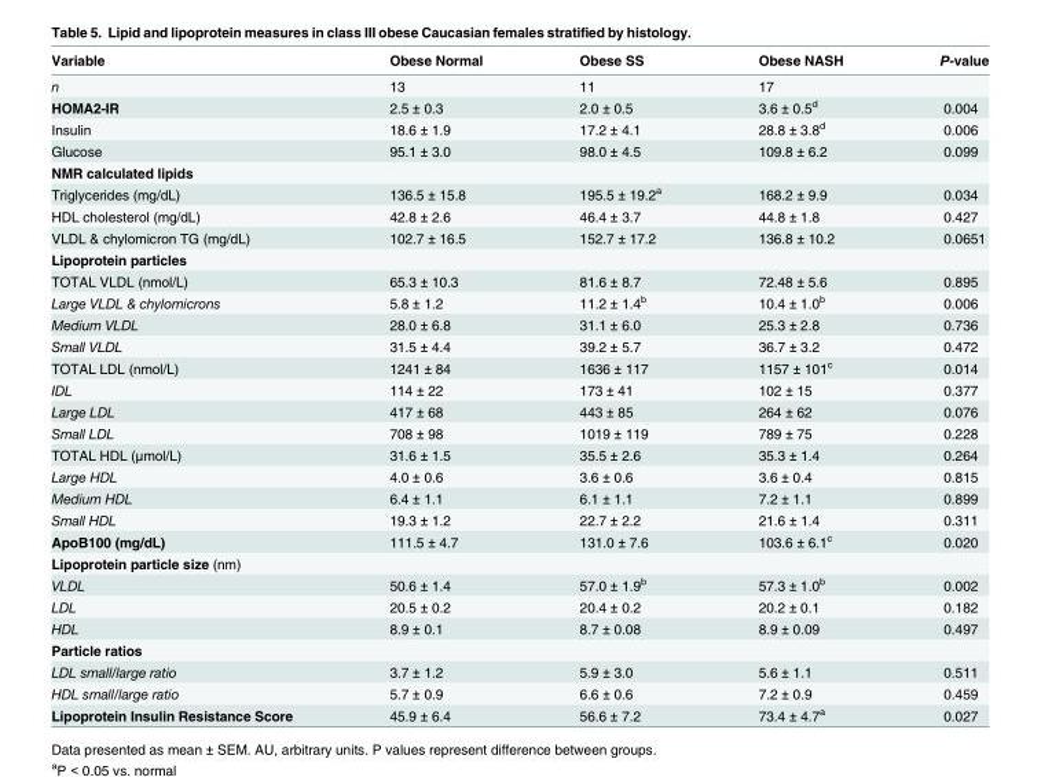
<table><thead><tr><td>Variable</td><td>Obese Normal</td><td>Obese SS</td><td>Obese NASH</td><td>P-value</td></tr></thead><tbody><tr><td>n</td><td>13</td><td>11</td><td>17</td><td></td></tr><tr><td>HOMA2-IR</td><td>2.5 ± 0.3</td><td>2.0 ± 0.5</td><td>3.6 ± 0.5<sup>d</sup></td><td>0.004</td></tr><tr><td>Insulin</td><td>18.6 ± 1.9</td><td>17.2 ± 4.1</td><td>28.8 ± 3.8<sup>d</sup></td><td>0.006</td></tr><tr><td>Glucose</td><td>95.1 ± 3.0</td><td>98.0 ± 4.5</td><td>109.8 ± 6.2</td><td>0.099</td></tr><tr><td colspan="5">NMR calculated lipids</td></tr><tr><td>Triglycerides (mg/dL)</td><td>136.5 ± 15.8</td><td>195.5 ± 19.2<sup>a</sup></td><td>168.2 ± 9.9</td><td>0.034</td></tr><tr><td>HDL cholesterol (mg/dL)</td><td>42.8 ± 2.6</td><td>46.4 ± 3.7</td><td>44.8 ± 1.8</td><td>0.427</td></tr><tr><td>VLDL &amp; chylomicron TG (mg/dL)</td><td>102.7 ± 16.5</td><td>152.7 ± 17.2</td><td>136.8 ± 10.2</td><td>0.0651</td></tr><tr><td colspan="5">Lipoprotein particles</td></tr><tr><td>TOTAL VLDL (nmol/L)</td><td>65.3 ± 10.3</td><td>81.6 ± 8.7</td><td>72.48 ± 5.6</td><td>0.895</td></tr><tr><td>Large VLDL &amp; chylomicrons</td><td>5.8 ± 1.2</td><td>11.2 ± 1.4<sup>b</sup></td><td>10.4 ± 1.0<sup>b</sup></td><td>0.006</td></tr><tr><td>Medium VLDL</td><td>28.0 ± 6.8</td><td>31.1 ± 6.0</td><td>25.3 ± 2.8</td><td>0.736</td></tr><tr><td>Small VLDL</td><td>31.5 ± 4.4</td><td>39.2 ± 5.7</td><td>36.7 ± 3.2</td><td>0.472</td></tr><tr><td>TOTAL LDL (nmol/L)</td><td>1241 ± 84</td><td>1636 ± 117</td><td>1157 ± 101<sup>c</sup></td><td>0.014</td></tr><tr><td>IDL</td><td>114 ± 22</td><td>173 ± 41</td><td>102 ± 15</td><td>0.377</td></tr><tr><td>Large LDL</td><td>417 ± 68</td><td>443 ± 85</td><td>264 ± 62</td><td>0.076</td></tr><tr><td>Small LDL</td><td>708 ± 98</td><td>1019 ± 119</td><td>789 ± 75</td><td>0.228</td></tr><tr><td>TOTAL HDL (μmol/L)</td><td>31.6 ± 1.5</td><td>35.5 ± 2.6</td><td>35.3 ± 1.4</td><td>0.264</td></tr><tr><td>Large HDL</td><td>4.0 ± 0.6</td><td>3.6 ± 0.6</td><td>3.6 ± 0.4</td><td>0.815</td></tr><tr><td>Medium HDL</td><td>6.4 ± 1.1</td><td>6.1 ± 1.1</td><td>7.2 ± 1.1</td><td>0.899</td></tr><tr><td>Small HDL</td><td>19.3 ± 1.2</td><td>22.7 ± 2.2</td><td>21.6 ± 1.4</td><td>0.311</td></tr><tr><td>ApoB100 (mg/dL)</td><td>111.5 ± 4.7</td><td>131.0 ± 7.6</td><td>103.6 ± 6.1<sup>c</sup></td><td>0.020</td></tr><tr><td colspan="5">Lipoprotein particle size (nm)</td></tr><tr><td>VLDL</td><td>50.6 ± 1.4</td><td>57.0 ± 1.9<sup>b</sup></td><td>57.3 ± 1.0<sup>b</sup></td><td>0.002</td></tr><tr><td>LDL</td><td>20.5 ± 0.2</td><td>20.4 ± 0.2</td><td>20.2 ± 0.1</td><td>0.182</td></tr><tr><td>HDL</td><td>8.9 ± 0.1</td><td>8.7 ± 0.08</td><td>8.9 ± 0.09</td><td>0.497</td></tr><tr><td colspan="5">Particle ratios</td></tr><tr><td>LDL small/large ratio</td><td>3.7 ± 1.2</td><td>5.9 ± 3.0</td><td>5.6 ± 1.1</td><td>0.511</td></tr><tr><td>HDL small/large ratio</td><td>5.7 ± 0.9</td><td>6.6 ± 0.6</td><td>7.2 ± 0.9</td><td>0.459</td></tr><tr><td>Lipoprotein Insulin Resistance Score</td><td>45.9 ± 6.4</td><td>56.6 ± 7.2</td><td>73.4 ± 4.7<sup>a</sup></td><td>0.027</td></tr></tbody></table>